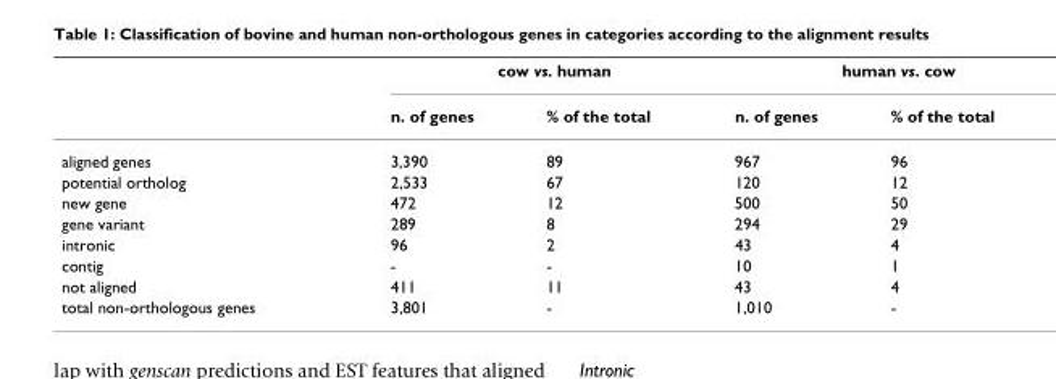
<table><thead><tr><td rowspan="2"></td><td colspan="2">cow vs. human</td><td colspan="2">human vs. cow</td></tr><tr><td>n. of genes</td><td>% of the total</td><td>n. of genes</td><td>% of the total</td></tr></thead><tbody><tr><td>aligned genes</td><td>3,390</td><td>89</td><td>967</td><td>96</td></tr><tr><td>potential ortholog</td><td>2,533</td><td>67</td><td>120</td><td>12</td></tr><tr><td>new gene</td><td>472</td><td>12</td><td>500</td><td>50</td></tr><tr><td>gene variant</td><td>289</td><td>8</td><td>294</td><td>29</td></tr><tr><td>intronic</td><td>96</td><td>2</td><td>43</td><td>4</td></tr><tr><td>contig</td><td>-</td><td>-</td><td>10</td><td>1</td></tr><tr><td>not aligned</td><td>411</td><td>11</td><td>43</td><td>4</td></tr><tr><td>total non-orthologous genes</td><td>3,801</td><td>-</td><td>1,010</td><td>-</td></tr></tbody></table>